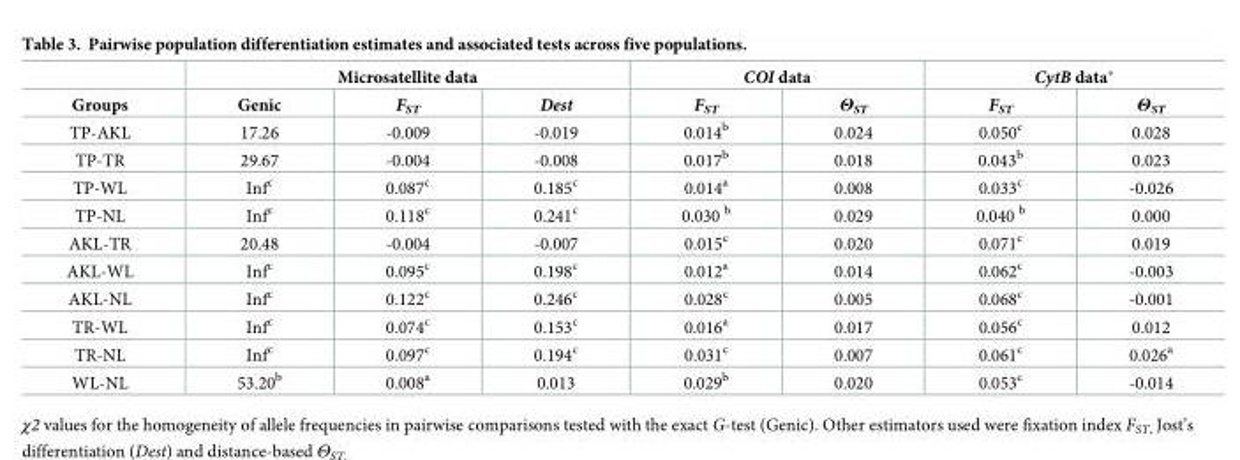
<table><thead><tr><td rowspan="2">Groups</td><td colspan="3">Microsatellite data</td><td colspan="2">COI data</td><td colspan="2">CytB data*</td></tr><tr><td>Genic</td><td>F<sub>ST</sub></td><td>Dest</td><td>F<sub>ST</sub></td><td>Θ<sub>ST</sub></td><td>F<sub>ST</sub></td><td>Θ<sub>ST</sub></td></tr></thead><tbody><tr><td>TP-AKL</td><td>17.26</td><td>-0.009</td><td>-0.019</td><td>0.014<sup>b</sup></td><td>0.024</td><td>0.050<sup>c</sup></td><td>0.028</td></tr><tr><td>TP-TR</td><td>29.67</td><td>-0.004</td><td>-0.008</td><td>0.017<sup>b</sup></td><td>0.018</td><td>0.043<sup>b</sup></td><td>0.023</td></tr><tr><td>TP-WL</td><td>Inf<sup>c</sup></td><td>0.087<sup>c</sup></td><td>0.185<sup>c</sup></td><td>0.014<sup>a</sup></td><td>0.008</td><td>0.033<sup>c</sup></td><td>-0.026</td></tr><tr><td>TP-NL</td><td>Inf<sup>c</sup></td><td>0.118<sup>c</sup></td><td>0.241<sup>c</sup></td><td>0.030 <sup>b</sup></td><td>0.029</td><td>0.040 <sup>b</sup></td><td>0.000</td></tr><tr><td>AKL-TR</td><td>20.48</td><td>-0.004</td><td>-0.007</td><td>0.015<sup>c</sup></td><td>0.020</td><td>0.071<sup>c</sup></td><td>0.019</td></tr><tr><td>AKL-WL</td><td>Inf<sup>c</sup></td><td>0.095<sup>c</sup></td><td>0.198<sup>c</sup></td><td>0.012<sup>a</sup></td><td>0.014</td><td>0.062<sup>c</sup></td><td>-0.003</td></tr><tr><td>AKL-NL</td><td>Inf<sup>c</sup></td><td>0.122<sup>c</sup></td><td>0.246<sup>c</sup></td><td>0.028<sup>c</sup></td><td>0.005</td><td>0.068<sup>c</sup></td><td>-0.001</td></tr><tr><td>TR-WL</td><td>Inf<sup>c</sup></td><td>0.074<sup>c</sup></td><td>0.153<sup>c</sup></td><td>0.016<sup>a</sup></td><td>0.017</td><td>0.056<sup>c</sup></td><td>0.012</td></tr><tr><td>TR-NL</td><td>Inf<sup>c</sup></td><td>0.097<sup>c</sup></td><td>0.194<sup>c</sup></td><td>0.031<sup>c</sup></td><td>0.007</td><td>0.061<sup>c</sup></td><td>0.026<sup>a</sup></td></tr><tr><td>WL-NL</td><td>53.20<sup>b</sup></td><td>0.008<sup>a</sup></td><td>0.013</td><td>0.029<sup>b</sup></td><td>0.020</td><td>0.053<sup>c</sup></td><td>-0.014</td></tr></tbody></table>